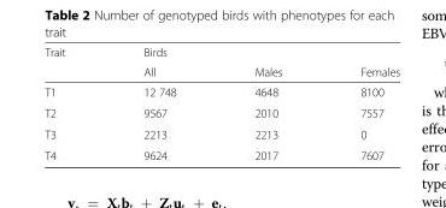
<table><thead><tr><td rowspan="2">Trait</td><td colspan="3">Birds</td></tr><tr><td>All</td><td>Males</td><td>Females</td></tr></thead><tbody><tr><td>T1</td><td>12 748</td><td>4648</td><td>8100</td></tr><tr><td>T2</td><td>9567</td><td>2010</td><td>7557</td></tr><tr><td>T3</td><td>2213</td><td>2213</td><td>0</td></tr><tr><td>T4</td><td>9624</td><td>2017</td><td>7607</td></tr></tbody></table>